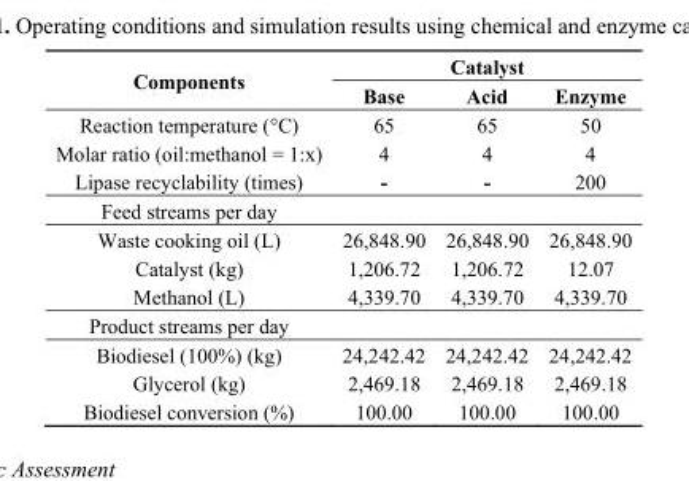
<table><thead><tr><td rowspan="2">Components</td><td colspan="3">Catalyst</td></tr><tr><td>Base</td><td>Acid</td><td>Enzyme</td></tr></thead><tbody><tr><td>Reaction temperature (°C)</td><td>65</td><td>65</td><td>50</td></tr><tr><td>Molar ratio (oil:methanol = 1:x)</td><td>4</td><td>4</td><td>4</td></tr><tr><td>Lipase recyclability (times)</td><td>-</td><td>-</td><td>200</td></tr><tr><td colspan="4">Feed streams per day</td></tr><tr><td>Waste cooking oil (L)</td><td>26,848.90</td><td>26,848.90</td><td>26,848.90</td></tr><tr><td>Catalyst (kg)</td><td>1,206.72</td><td>1,206.72</td><td>12.07</td></tr><tr><td>Methanol (L)</td><td>4,339.70</td><td>4,339.70</td><td>4,339.70</td></tr><tr><td colspan="4">Product streams per day</td></tr><tr><td>Biodiesel (100%) (kg)</td><td>24,242.42</td><td>24,242.42</td><td>24,242.42</td></tr><tr><td>Glycerol (kg)</td><td>2,469.18</td><td>2,469.18</td><td>2,469.18</td></tr><tr><td>Biodiesel conversion (%)</td><td>100.00</td><td>100.00</td><td>100.00</td></tr></tbody></table>